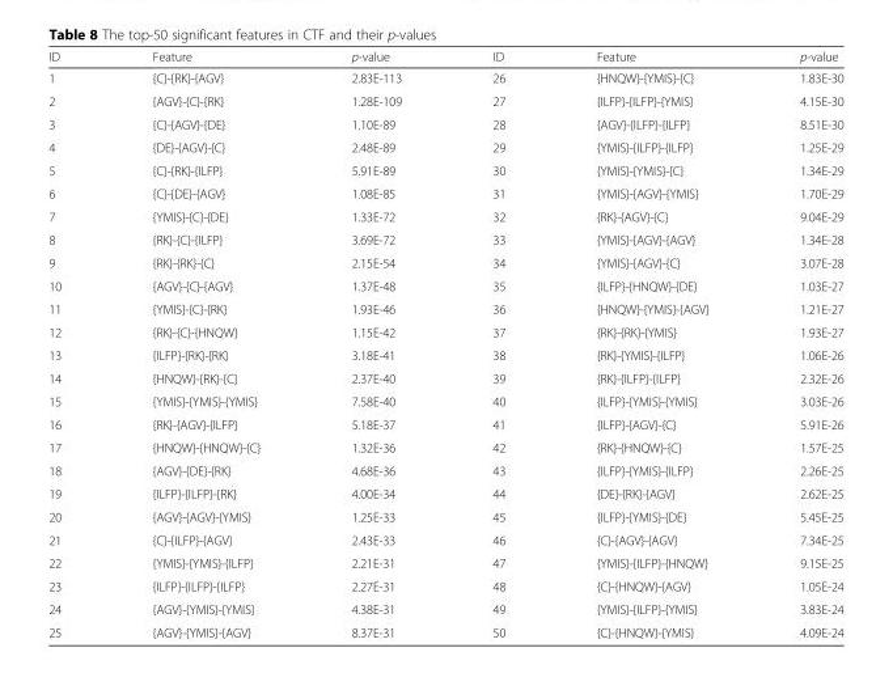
<table><thead><tr><td>ID</td><td>Feature</td><td>p-value</td><td>ID</td><td>Feature</td><td>p-value</td></tr></thead><tbody><tr><td>1</td><td>{C}-{RK}-{AGV}</td><td>2.83E-113</td><td>26</td><td>{HNQW}-{YMIS}-{C}</td><td>1.83E-30</td></tr><tr><td>2</td><td>{AGV}-{C}-{RK}</td><td>1.28E-109</td><td>27</td><td>{ILFP}-{ILFP}-{YMIS}</td><td>4.15E-30</td></tr><tr><td>3</td><td>{C}-{AGV}-{DE}</td><td>1.10E-89</td><td>28</td><td>{AGV}-{ILFP}-{ILFP}</td><td>8.51E-30</td></tr><tr><td>4</td><td>{DE}-{AGV}-{C}</td><td>2.48E-89</td><td>29</td><td>{YMIS}-{ILFP}-{ILFP}</td><td>1.25E-29</td></tr><tr><td>5</td><td>{C}-{RK}-{ILFP}</td><td>5.91E-89</td><td>30</td><td>{YMIS}-{YMIS}-{C}</td><td>1.34E-29</td></tr><tr><td>6</td><td>{C}-{DE}-{AGV}</td><td>1.08E-85</td><td>31</td><td>{YMIS}-{AGV}-{YMIS}</td><td>1.70E-29</td></tr><tr><td>7</td><td>{YMIS}-{C}-{DE}</td><td>1.33E-72</td><td>32</td><td>{RK}-{AGV}-{C}</td><td>9.04E-29</td></tr><tr><td>8</td><td>{RK}-{C}-{ILFP}</td><td>3.69E-72</td><td>33</td><td>{YMIS}-{AGV}-{AGV}</td><td>1.34E-28</td></tr><tr><td>9</td><td>{RK}-{RK}-{C}</td><td>2.15E-54</td><td>34</td><td>{YMIS}-{AGV}-{C}</td><td>3.07E-28</td></tr><tr><td>10</td><td>{AGV}-{C}-{AGV}</td><td>1.37E-48</td><td>35</td><td>{ILFP}-{HNQW}-{DE}</td><td>1.03E-27</td></tr><tr><td>11</td><td>{YMIS}-{C}-{RK}</td><td>1.93E-46</td><td>36</td><td>{HNQW}-{YMIS}-{AGV}</td><td>1.21E-27</td></tr><tr><td>12</td><td>{RK}-{C}-{HNQW}</td><td>1.15E-42</td><td>37</td><td>{RK}-{RK}-{YMIS}</td><td>1.93E-27</td></tr><tr><td>13</td><td>{ILFP}-{RK}-{RK}</td><td>3.18E-41</td><td>38</td><td>{RK}-{YMIS}-{ILFP}</td><td>1.06E-26</td></tr><tr><td>14</td><td>{HNQW}-{RK}-{C}</td><td>2.37E-40</td><td>39</td><td>{RK}-{ILFP}-{ILFP}</td><td>2.32E-26</td></tr><tr><td>15</td><td>{YMIS}-{YMIS}-{YMIS}</td><td>7.58E-40</td><td>40</td><td>{ILFP}-{YMIS}-{YMIS}</td><td>3.03E-26</td></tr><tr><td>16</td><td>{RK}-{AGV}-{ILFP}</td><td>5.18E-37</td><td>41</td><td>{ILFP}-{AGV}-{C}</td><td>5.91E-26</td></tr><tr><td>17</td><td>{HNQW}-{HNQW}-{C}</td><td>1.32E-36</td><td>42</td><td>{RK}-{HNQW}-{C}</td><td>1.57E-25</td></tr><tr><td>18</td><td>{AGV}-{DE}-{RK}</td><td>4.68E-36</td><td>43</td><td>{ILFP}-{YMIS}-{ILFP}</td><td>2.26E-25</td></tr><tr><td>19</td><td>{ILFP}-{ILFP}-{RK}</td><td>4.00E-34</td><td>44</td><td>{DE}-{RK}-{AGV}</td><td>2.62E-25</td></tr><tr><td>20</td><td>{AGV}-{AGV}-{YMIS}</td><td>1.25E-33</td><td>45</td><td>{ILFP}-{YMIS}-{DE}</td><td>5.45E-25</td></tr><tr><td>21</td><td>{C}-{ILFP}-{AGV}</td><td>2.43E-33</td><td>46</td><td>{C}-{AGV}-{AGV}</td><td>7.34E-25</td></tr><tr><td>22</td><td>{YMIS}-{YMIS}-{ILFP}</td><td>2.21E-31</td><td>47</td><td>{YMIS}-{ILFP}-{HNQW}</td><td>9.15E-25</td></tr><tr><td>23</td><td>{ILFP}-{ILFP}-{ILFP}</td><td>2.27E-31</td><td>48</td><td>{C}-{HNQW}-{AGV}</td><td>1.05E-24</td></tr><tr><td>24</td><td>{AGV}-{YMIS}-{YMIS}</td><td>4.38E-31</td><td>49</td><td>{YMIS}-{ILFP}-{YMIS}</td><td>3.83E-24</td></tr><tr><td>25</td><td>{AGV}-{YMIS}-{AGV}</td><td>8.37E-31</td><td>50</td><td>{C}-{HNQW}-{YMIS}</td><td>4.09E-24</td></tr></tbody></table>